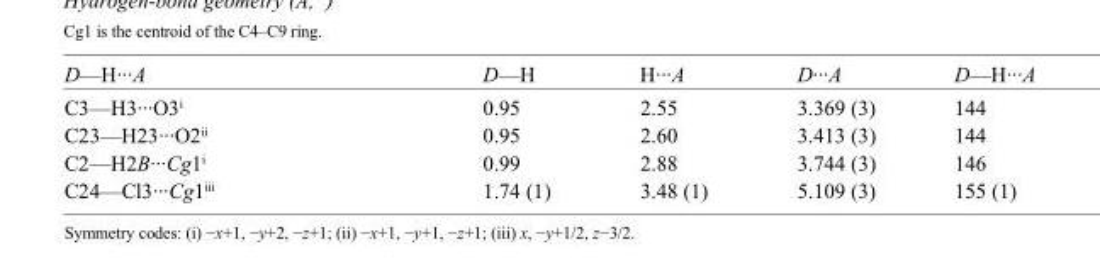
<table><tbody><tr><td>D—H···A</td><td>D—H</td><td>H···A</td><td>D···A</td><td>D—H···A</td></tr><tr><td>C3—H3···O3<sup>i</sup></td><td>0.95</td><td>2.55</td><td>3.369 (3)</td><td>144</td></tr><tr><td>C23—H23···O2<sup>ii</sup></td><td>0.95</td><td>2.60</td><td>3.413 (3)</td><td>144</td></tr><tr><td>C2—H2B···Cg1<sup>i</sup></td><td>0.99</td><td>2.88</td><td>3.744 (3)</td><td>146</td></tr><tr><td>C24—Cl3···Cg1<sup>iii</sup></td><td>1.74 (1)</td><td>3.48 (1)</td><td>5.109 (3)</td><td>155 (1)</td></tr></tbody></table>